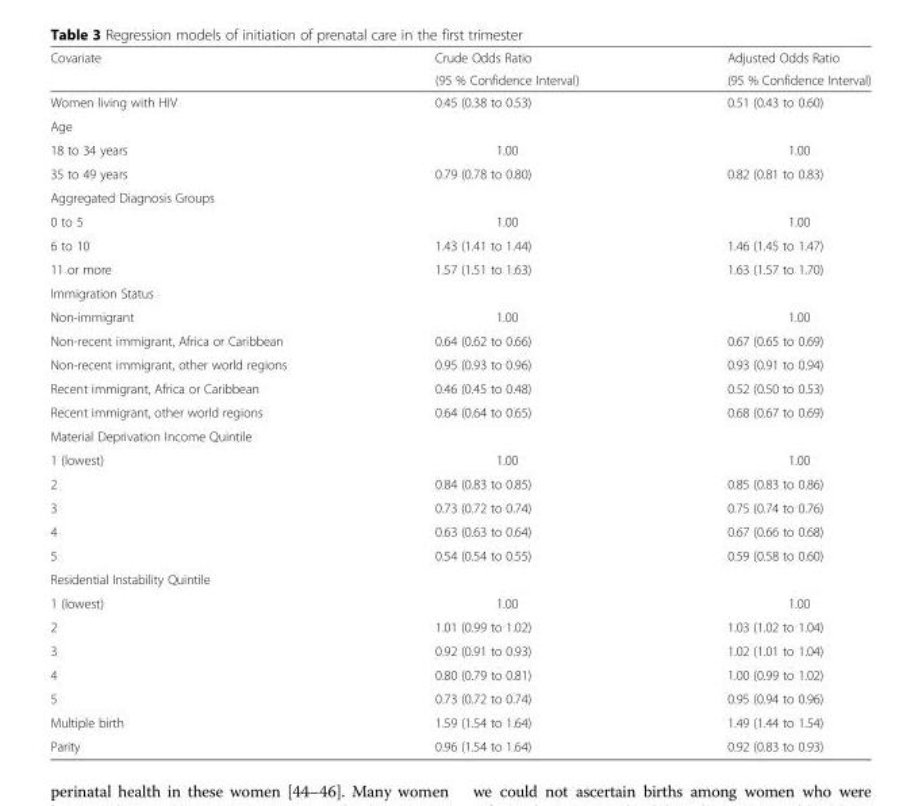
<table><thead><tr><td rowspan="2">Covariate</td><td rowspan="2">Crude Odds Ratio (95 % Confidence Interval)</td><td rowspan="2">Adjusted Odds Ratio (95 % Confidence Interval)</td></tr><tr></tr></thead><tbody><tr><td>Women living with HIV</td><td>0.45 (0.38 to 0.53)</td><td>0.51 (0.43 to 0.60)</td></tr><tr><td colspan="3">Age</td></tr><tr><td>18 to 34 years</td><td>1.00</td><td>1.00</td></tr><tr><td>35 to 49 years</td><td>0.79 (0.78 to 0.80)</td><td>0.82 (0.81 to 0.83)</td></tr><tr><td colspan="3">Aggregated Diagnosis Groups</td></tr><tr><td>0 to 5</td><td>1.00</td><td>1.00</td></tr><tr><td>6 to 10</td><td>1.43 (1.41 to 1.44)</td><td>1.46 (1.45 to 1.47)</td></tr><tr><td>11 or more</td><td>1.57 (1.51 to 1.63)</td><td>1.63 (1.57 to 1.70)</td></tr><tr><td colspan="3">Immigration Status</td></tr><tr><td>Non-immigrant</td><td>1.00</td><td>1.00</td></tr><tr><td>Non-recent immigrant, Africa or Caribbean</td><td>0.64 (0.62 to 0.66)</td><td>0.67 (0.65 to 0.69)</td></tr><tr><td>Non-recent immigrant, other world regions</td><td>0.95 (0.93 to 0.96)</td><td>0.93 (0.91 to 0.94)</td></tr><tr><td>Recent immigrant, Africa or Caribbean</td><td>0.46 (0.45 to 0.48)</td><td>0.52 (0.50 to 0.53)</td></tr><tr><td>Recent immigrant, other world regions</td><td>0.64 (0.64 to 0.65)</td><td>0.68 (0.67 to 0.69)</td></tr><tr><td colspan="3">Material Deprivation Income Quintile</td></tr><tr><td>1 (lowest)</td><td>1.00</td><td>1.00</td></tr><tr><td>2</td><td>0.84 (0.83 to 0.85)</td><td>0.85 (0.83 to 0.86)</td></tr><tr><td>3</td><td>0.73 (0.72 to 0.74)</td><td>0.75 (0.74 to 0.76)</td></tr><tr><td>4</td><td>0.63 (0.63 to 0.64)</td><td>0.67 (0.66 to 0.68)</td></tr><tr><td>5</td><td>0.54 (0.54 to 0.55)</td><td>0.59 (0.58 to 0.60)</td></tr><tr><td colspan="3">Residential Instability Quintile</td></tr><tr><td>1 (lowest)</td><td>1.00</td><td>1.00</td></tr><tr><td>2</td><td>1.01 (0.99 to 1.02)</td><td>1.03 (1.02 to 1.04)</td></tr><tr><td>3</td><td>0.92 (0.91 to 0.93)</td><td>1.02 (1.01 to 1.04)</td></tr><tr><td>4</td><td>0.80 (0.79 to 0.81)</td><td>1.00 (0.99 to 1.02)</td></tr><tr><td>5</td><td>0.73 (0.72 to 0.74)</td><td>0.95 (0.94 to 0.96)</td></tr><tr><td>Multiple birth</td><td>1.59 (1.54 to 1.64)</td><td>1.49 (1.44 to 1.54)</td></tr><tr><td>Parity</td><td>0.96 (1.54 to 1.64)</td><td>0.92 (0.83 to 0.93)</td></tr></tbody></table>